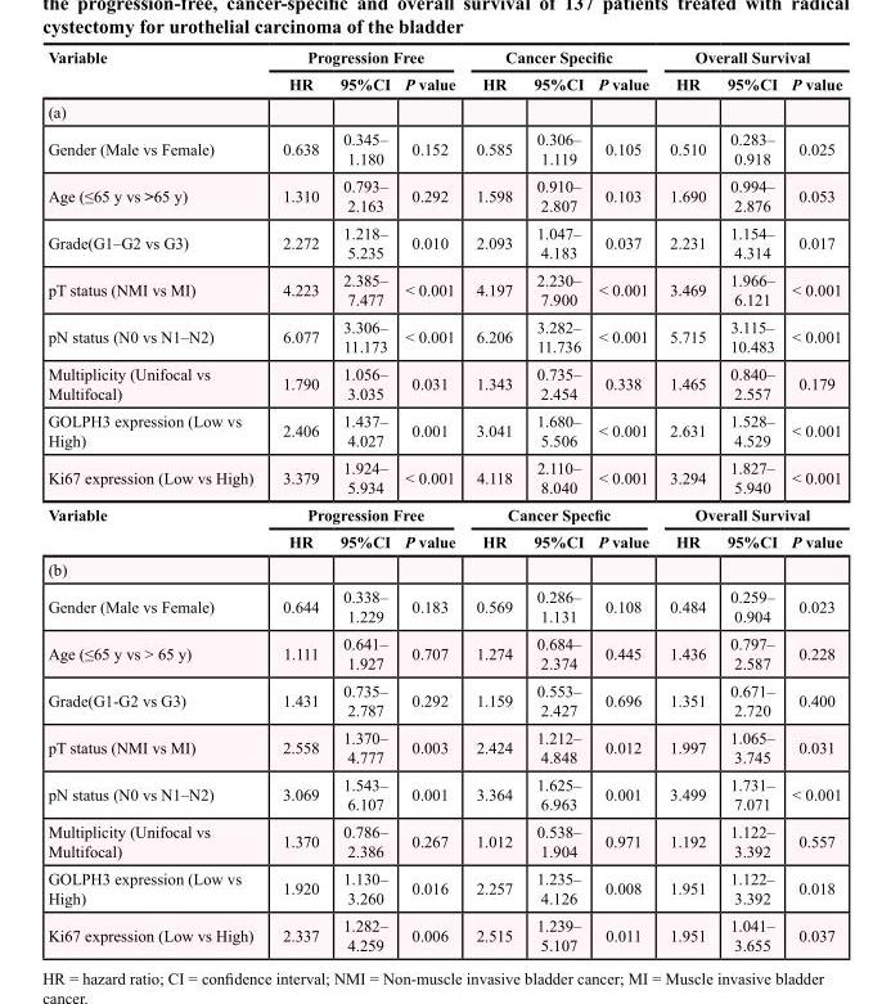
<table><thead><tr><td rowspan="2">Variable</td><td colspan="3">Progression Free</td><td colspan="3">Cancer Specific</td><td colspan="3">Overall Survival</td></tr><tr><td>HR</td><td>95%CI</td><td>P value</td><td>HR</td><td>95%CI</td><td>P value</td><td>HR</td><td>95%CI</td><td>P value</td></tr></thead><tbody><tr><td colspan="10">(a)</td></tr><tr><td>Gender (Male vs Female)</td><td>0.638</td><td>0.345– 1.180</td><td>0.152</td><td>0.585</td><td>0.306– 1.119</td><td>0.105</td><td>0.510</td><td>0.283– 0.918</td><td>0.025</td></tr><tr><td>Age (≤65 y vs &gt;65 y)</td><td>1.310</td><td>0.793– 2.163</td><td>0.292</td><td>1.598</td><td>0.910– 2.807</td><td>0.103</td><td>1.690</td><td>0.994– 2.876</td><td>0.053</td></tr><tr><td>Grade(G1–G2 vs G3)</td><td>2.272</td><td>1.218– 5.235</td><td>0.010</td><td>2.093</td><td>1.047– 4.183</td><td>0.037</td><td>2.231</td><td>1.154– 4.314</td><td>0.017</td></tr><tr><td>pT status (NMI vs MI)</td><td>4.223</td><td>2.385– 7.477</td><td>&lt; 0.001</td><td>4.197</td><td>2.230– 7.900</td><td>&lt; 0.001</td><td>3.469</td><td>1.966– 6.121</td><td>&lt; 0.001</td></tr><tr><td>pN status (N0 vs N1–N2)</td><td>6.077</td><td>3.306– 11.173</td><td>&lt; 0.001</td><td>6.206</td><td>3.282– 11.736</td><td>&lt; 0.001</td><td>5.715</td><td>3.115– 10.483</td><td>&lt; 0.001</td></tr><tr><td>Multiplicity (Unifocal vs Multifocal)</td><td>1.790</td><td>1.056– 3.035</td><td>0.031</td><td>1.343</td><td>0.735– 2.454</td><td>0.338</td><td>1.465</td><td>0.840– 2.557</td><td>0.179</td></tr><tr><td>GOLPH3 expression (Low vs High)</td><td>2.406</td><td>1.437– 4.027</td><td>0.001</td><td>3.041</td><td>1.680– 5.506</td><td>&lt; 0.001</td><td>2.631</td><td>1.528– 4.529</td><td>&lt; 0.001</td></tr><tr><td>Ki67 expression (Low vs High)</td><td>3.379</td><td>1.924– 5.934</td><td>&lt; 0.001</td><td>4.118</td><td>2.110– 8.040</td><td>&lt; 0.001</td><td>3.294</td><td>1.827– 5.940</td><td>&lt; 0.001</td></tr><tr><td rowspan="2">Variable</td><td colspan="3">Progression Free</td><td colspan="3">Cancer Specfic</td><td colspan="3">Overall Survival</td></tr><tr><td>HR</td><td>95%CI</td><td>P value</td><td>HR</td><td>95%CI</td><td>P value</td><td>HR</td><td>95%CI</td><td>P value</td></tr><tr><td colspan="10">(b)</td></tr><tr><td>Gender (Male vs Female)</td><td>0.644</td><td>0.338– 1.229</td><td>0.183</td><td>0.569</td><td>0.286– 1.131</td><td>0.108</td><td>0.484</td><td>0.259– 0.904</td><td>0.023</td></tr><tr><td>Age (≤65 y vs &gt; 65 y)</td><td>1.111</td><td>0.641– 1.927</td><td>0.707</td><td>1.274</td><td>0.684– 2.374</td><td>0.445</td><td>1.436</td><td>0.797– 2.587</td><td>0.228</td></tr><tr><td>Grade(G1-G2 vs G3)</td><td>1.431</td><td>0.735– 2.787</td><td>0.292</td><td>1.159</td><td>0.553– 2.427</td><td>0.696</td><td>1.351</td><td>0.671– 2.720</td><td>0.400</td></tr><tr><td>pT status (NMI vs MI)</td><td>2.558</td><td>1.370– 4.777</td><td>0.003</td><td>2.424</td><td>1.212– 4.848</td><td>0.012</td><td>1.997</td><td>1.065– 3.745</td><td>0.031</td></tr><tr><td>pN status (N0 vs N1–N2)</td><td>3.069</td><td>1.543– 6.107</td><td>0.001</td><td>3.364</td><td>1.625– 6.963</td><td>0.001</td><td>3.499</td><td>1.731– 7.071</td><td>&lt; 0.001</td></tr><tr><td>Multiplicity (Unifocal vs Multifocal)</td><td>1.370</td><td>0.786– 2.386</td><td>0.267</td><td>1.012</td><td>0.538– 1.904</td><td>0.971</td><td>1.192</td><td>1.122– 3.392</td><td>0.557</td></tr><tr><td>GOLPH3 expression (Low vs High)</td><td>1.920</td><td>1.130– 3.260</td><td>0.016</td><td>2.257</td><td>1.235– 4.126</td><td>0.008</td><td>1.951</td><td>1.122– 3.392</td><td>0.018</td></tr><tr><td>Ki67 expression (Low vs High)</td><td>2.337</td><td>1.282– 4.259</td><td>0.006</td><td>2.515</td><td>1.239– 5.107</td><td>0.011</td><td>1.951</td><td>1.041– 3.655</td><td>0.037</td></tr></tbody></table>